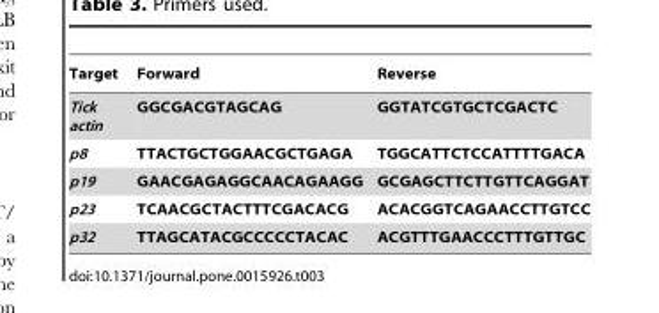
<table><thead><tr><td>Target</td><td>Forward</td><td>Reverse</td></tr></thead><tbody><tr><td>Tick actin</td><td>GGCGACGTAGCAG</td><td>GGTATCGTGCTCGACTC</td></tr><tr><td>p8</td><td>TTACTGCTGGAACGCTGAGA</td><td>TGGCATTCTCCATTTTGACA</td></tr><tr><td>p19</td><td>GAACGAGAGGCAACAGAAGG</td><td>GCGAGCTTCTTGTTCAGGAT</td></tr><tr><td>p23</td><td>TCAACGCTACTTTCGACACG</td><td>ACACGGTCAGAACCTTGTCC</td></tr><tr><td>p32</td><td>TTAGCATACGCCCCCTACAC</td><td>ACGTTTGAACCCTTTGTTGC</td></tr></tbody></table>